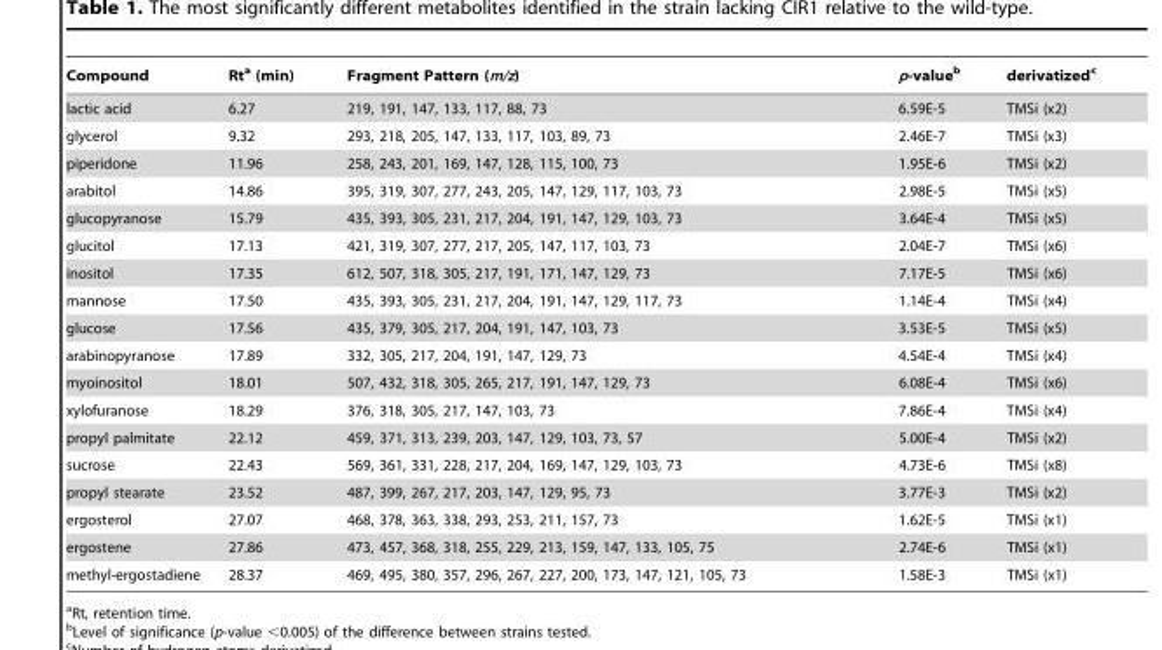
<table><thead><tr><td>Compound</td><td>Rt<sup>a</sup> (min)</td><td>Fragment Pattern (m/z)</td><td>p-value<sup>b</sup></td><td>derivatized<sup>c</sup></td></tr></thead><tbody><tr><td>lactic acid</td><td>6.27</td><td>219, 191, 147, 133, 117, 88, 73</td><td>6.59E-5</td><td>TMSi (x2)</td></tr><tr><td>glycerol</td><td>9.32</td><td>293, 218, 205, 147, 133, 117, 103, 89, 73</td><td>2.46E-7</td><td>TMSi (x3)</td></tr><tr><td>piperidone</td><td>11.96</td><td>258, 243, 201, 169, 147, 128, 115, 100, 73</td><td>1.95E-6</td><td>TMSi (x2)</td></tr><tr><td>arabitol</td><td>14.86</td><td>395, 319, 307, 277, 243, 205, 147, 129, 117, 103, 73</td><td>2.98E-5</td><td>TMSi (x5)</td></tr><tr><td>glucopyranose</td><td>15.79</td><td>435, 393, 305, 231, 217, 204, 191, 147, 129, 103, 73</td><td>3.64E-4</td><td>TMSi (x5)</td></tr><tr><td>glucitol</td><td>17.13</td><td>421, 319, 307, 277, 217, 205, 147, 117, 103, 73</td><td>2.04E-7</td><td>TMSi (x6)</td></tr><tr><td>inositol</td><td>17.35</td><td>612, 507, 318, 305, 217, 191, 171, 147, 129, 73</td><td>7.17E-5</td><td>TMSi (x6)</td></tr><tr><td>mannose</td><td>17.50</td><td>435, 393, 305, 231, 217, 204, 191, 147, 129, 117, 73</td><td>1.14E-4</td><td>TMSi (x4)</td></tr><tr><td>glucose</td><td>17.56</td><td>435, 379, 305, 217, 204, 191, 147, 103, 73</td><td>3.53E-5</td><td>TMSi (x5)</td></tr><tr><td>arabinopyranose</td><td>17.89</td><td>332, 305, 217, 204, 191, 147, 129, 73</td><td>4.54E-4</td><td>TMSi (x4)</td></tr><tr><td>myoinositol</td><td>18.01</td><td>507, 432, 318, 305, 265, 217, 191, 147, 129, 73</td><td>6.08E-4</td><td>TMSi (x6)</td></tr><tr><td>xylofuranose</td><td>18.29</td><td>376, 318, 305, 217, 147, 103, 73</td><td>7.86E-4</td><td>TMSi (x4)</td></tr><tr><td>propyl palmitate</td><td>22.12</td><td>459, 371, 313, 239, 203, 147, 129, 103, 73, 57</td><td>5.00E-4</td><td>TMSi (x2)</td></tr><tr><td>sucrose</td><td>22.43</td><td>569, 361, 331, 228, 217, 204, 169, 147, 129, 103, 73</td><td>4.73E-6</td><td>TMSi (x8)</td></tr><tr><td>propyl stearate</td><td>23.52</td><td>487, 399, 267, 217, 203, 147, 129, 95, 73</td><td>3.77E-3</td><td>TMSi (x2)</td></tr><tr><td>ergosterol</td><td>27.07</td><td>468, 378, 363, 338, 293, 253, 211, 157, 73</td><td>1.62E-5</td><td>TMSi (x1)</td></tr><tr><td>ergostene</td><td>27.86</td><td>473, 457, 368, 318, 255, 229, 213, 159, 147, 133, 105, 75</td><td>2.74E-6</td><td>TMSi (x1)</td></tr><tr><td>methyl-ergostadiene</td><td>28.37</td><td>469, 495, 380, 357, 296, 267, 227, 200, 173, 147, 121, 105, 73</td><td>1.58E-3</td><td>TMSi (x1)</td></tr></tbody></table>